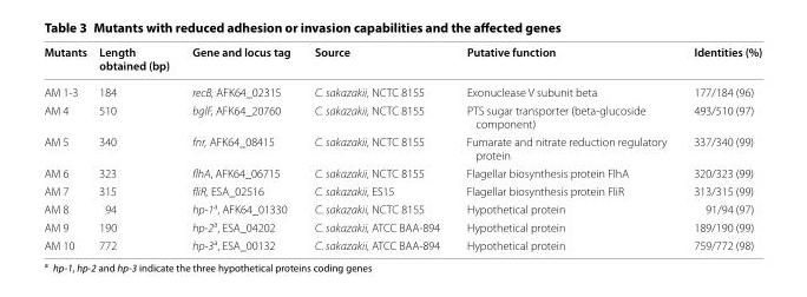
<table><thead><tr><td>Mutants</td><td>Length obtained (bp)</td><td>Gene and locus tag</td><td>Source</td><td>Putative function</td><td>Identities (%)</td></tr></thead><tbody><tr><td>AM 1‑3</td><td>184</td><td>recB, AFK64_02315</td><td>C. sakazakii, NCTC 8155</td><td>Exonuclease V subunit beta</td><td>177/184 (96)</td></tr><tr><td>AM 4</td><td>510</td><td>bglF, AFK64_20760</td><td>C. sakazakii, NCTC 8155</td><td>PTS sugar transporter (beta‑glucoside component)</td><td>493/510 (97)</td></tr><tr><td>AM 5</td><td>340</td><td>fnr, AFK64_08415</td><td>C. sakazakii, NCTC 8155</td><td>Fumarate and nitrate reduction regulatory protein</td><td>337/340 (99)</td></tr><tr><td>AM 6</td><td>323</td><td>flhA, AFK64_06715</td><td>C. sakazakii, NCTC 8155</td><td>Flagellar biosynthesis protein FlhA</td><td>320/323 (99)</td></tr><tr><td>AM 7</td><td>315</td><td>fliR, ESA_02516</td><td>C. sakazakii, ES15</td><td>Flagellar biosynthesis protein FliR</td><td>313/315 (99)</td></tr><tr><td>AM 8</td><td>94</td><td>hp‑1<sup>a</sup>, AFK64_01330</td><td>C. sakazakii, NCTC 8155</td><td>Hypothetical protein</td><td>91/94 (97)</td></tr><tr><td>AM 9</td><td>190</td><td>hp‑2<sup>a</sup>, ESA_04202</td><td>C. sakazakii, ATCC BAA‑894</td><td>Hypothetical protein</td><td>189/190 (99)</td></tr><tr><td>AM 10</td><td>772</td><td>hp‑3<sup>a</sup>, ESA_00132</td><td>C. sakazakii, ATCC BAA‑894</td><td>Hypothetical protein</td><td>759/772 (98)</td></tr></tbody></table>